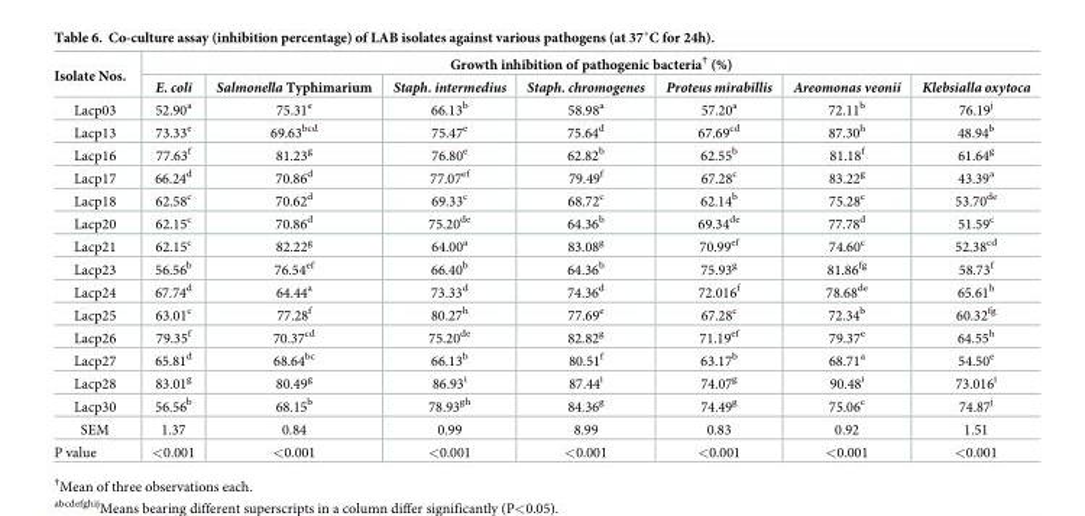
<table><thead><tr><td rowspan="2">Isolate Nos.</td><td colspan="7">Growth inhibition of pathogenic bacteria<sup>†</sup> (%)</td></tr><tr><td>E. coli</td><td>Salmonella Typhimarium</td><td>Staph. intermedius</td><td>Staph. chromogenes</td><td>Proteus mirabillis</td><td>Areomonas veonii</td><td>Klebsialla oxytoca</td></tr></thead><tbody><tr><td>Lacp03</td><td>52.90<sup>a</sup></td><td>75.31<sup>e</sup></td><td>66.13<sup>b</sup></td><td>58.98<sup>a</sup></td><td>57.20<sup>a</sup></td><td>72.11<sup>b</sup></td><td>76.19<sup>j</sup></td></tr><tr><td>Lacp13</td><td>73.33<sup>e</sup></td><td>69.63<sup>bcd</sup></td><td>75.47<sup>e</sup></td><td>75.64<sup>d</sup></td><td>67.69<sup>cd</sup></td><td>87.30<sup>h</sup></td><td>48.94<sup>b</sup></td></tr><tr><td>Lacp16</td><td>77.63<sup>f</sup></td><td>81.23<sup>g</sup></td><td>76.80<sup>e</sup></td><td>62.82<sup>b</sup></td><td>62.55<sup>b</sup></td><td>81.18<sup>f</sup></td><td>61.64<sup>g</sup></td></tr><tr><td>Lacp17</td><td>66.24<sup>d</sup></td><td>70.86<sup>d</sup></td><td>77.07<sup>ef</sup></td><td>79.49<sup>f</sup></td><td>67.28<sup>c</sup></td><td>83.22<sup>g</sup></td><td>43.39<sup>a</sup></td></tr><tr><td>Lacp18</td><td>62.58<sup>c</sup></td><td>70.62<sup>d</sup></td><td>69.33<sup>c</sup></td><td>68.72<sup>c</sup></td><td>62.14<sup>b</sup></td><td>75.28<sup>c</sup></td><td>53.70<sup>de</sup></td></tr><tr><td>Lacp20</td><td>62.15<sup>c</sup></td><td>70.86<sup>d</sup></td><td>75.20<sup>de</sup></td><td>64.36<sup>b</sup></td><td>69.34<sup>de</sup></td><td>77.78<sup>d</sup></td><td>51.59<sup>c</sup></td></tr><tr><td>Lacp21</td><td>62.15<sup>c</sup></td><td>82.22<sup>g</sup></td><td>64.00<sup>a</sup></td><td>83.08<sup>g</sup></td><td>70.99<sup>ef</sup></td><td>74.60<sup>c</sup></td><td>52.38<sup>cd</sup></td></tr><tr><td>Lacp23</td><td>56.56<sup>b</sup></td><td>76.54<sup>ef</sup></td><td>66.40<sup>b</sup></td><td>64.36<sup>b</sup></td><td>75.93<sup>g</sup></td><td>81.86<sup>fg</sup></td><td>58.73<sup>f</sup></td></tr><tr><td>Lacp24</td><td>67.74<sup>d</sup></td><td>64.44<sup>a</sup></td><td>73.33<sup>d</sup></td><td>74.36<sup>d</sup></td><td>72.016<sup>f</sup></td><td>78.68<sup>de</sup></td><td>65.61<sup>h</sup></td></tr><tr><td>Lacp25</td><td>63.01<sup>c</sup></td><td>77.28<sup>f</sup></td><td>80.27<sup>h</sup></td><td>77.69<sup>e</sup></td><td>67.28<sup>c</sup></td><td>72.34<sup>b</sup></td><td>60.32<sup>fg</sup></td></tr><tr><td>Lacp26</td><td>79.35<sup>f</sup></td><td>70.37<sup>cd</sup></td><td>75.20<sup>de</sup></td><td>82.82<sup>g</sup></td><td>71.19<sup>ef</sup></td><td>79.37<sup>e</sup></td><td>64.55<sup>h</sup></td></tr><tr><td>Lacp27</td><td>65.81<sup>d</sup></td><td>68.64<sup>bc</sup></td><td>66.13<sup>b</sup></td><td>80.51<sup>f</sup></td><td>63.17<sup>b</sup></td><td>68.71<sup>a</sup></td><td>54.50<sup>e</sup></td></tr><tr><td>Lacp28</td><td>83.01<sup>g</sup></td><td>80.49<sup>g</sup></td><td>86.93<sup>i</sup></td><td>87.44<sup>i</sup></td><td>74.07<sup>g</sup></td><td>90.48<sup>i</sup></td><td>73.016<sup>i</sup></td></tr><tr><td>Lacp30</td><td>56.56<sup>b</sup></td><td>68.15<sup>b</sup></td><td>78.93<sup>gh</sup></td><td>84.36<sup>g</sup></td><td>74.49<sup>g</sup></td><td>75.06<sup>c</sup></td><td>74.87<sup>j</sup></td></tr><tr><td>SEM</td><td>1.37</td><td>0.84</td><td>0.99</td><td>8.99</td><td>0.83</td><td>0.92</td><td>1.51</td></tr><tr><td>P value</td><td>&lt;0.001</td><td>&lt;0.001</td><td>&lt;0.001</td><td>&lt;0.001</td><td>&lt;0.001</td><td>&lt;0.001</td><td>&lt;0.001</td></tr></tbody></table>